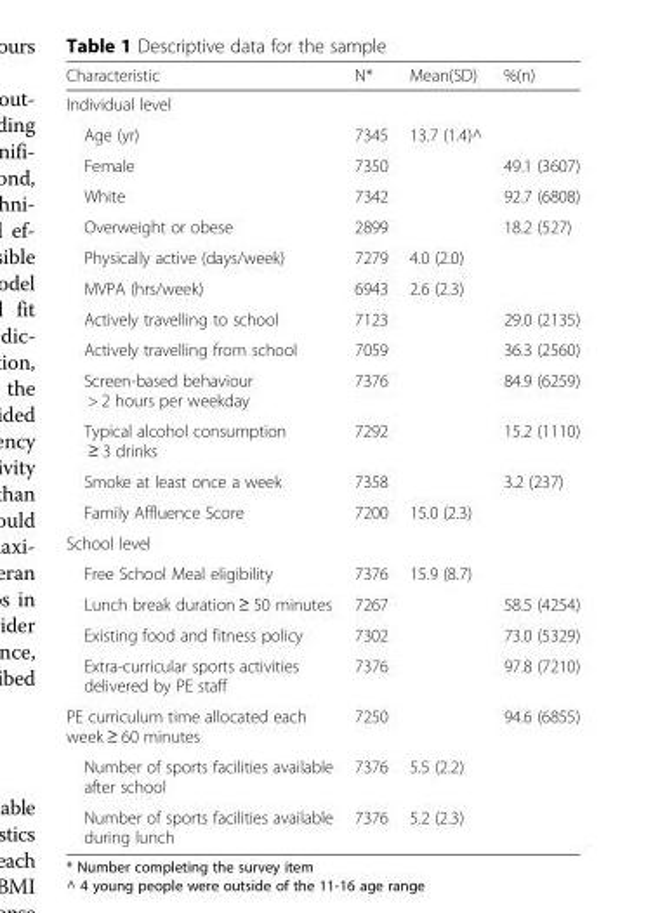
<table><thead><tr><td>Characteristic</td><td>N*</td><td>Mean(SD)</td><td>%(n)</td></tr></thead><tbody><tr><td colspan="4">Individual level</td></tr><tr><td>Age (yr)</td><td>7345</td><td>13.7 (1.4)^</td><td></td></tr><tr><td>Female</td><td>7350</td><td></td><td>49.1 (3607)</td></tr><tr><td>White</td><td>7342</td><td></td><td>92.7 (6808)</td></tr><tr><td>Overweight or obese</td><td>2899</td><td></td><td>18.2 (527)</td></tr><tr><td>Physically active (days/week)</td><td>7279</td><td>4.0 (2.0)</td><td></td></tr><tr><td>MVPA (hrs/week)</td><td>6943</td><td>2.6 (2.3)</td><td></td></tr><tr><td>Actively travelling to school</td><td>7123</td><td></td><td>29.0 (2135)</td></tr><tr><td>Actively travelling from school</td><td>7059</td><td></td><td>36.3 (2560)</td></tr><tr><td>Screen-based behaviour &gt; 2 hours per weekday</td><td>7376</td><td></td><td>84.9 (6259)</td></tr><tr><td>Typical alcohol consumption ≥ 3 drinks</td><td>7292</td><td></td><td>15.2 (1110)</td></tr><tr><td>Smoke at least once a week</td><td>7358</td><td></td><td>3.2 (237)</td></tr><tr><td>Family Affluence Score</td><td>7200</td><td>15.0 (2.3)</td><td></td></tr><tr><td colspan="4">School level</td></tr><tr><td>Free School Meal eligibility</td><td>7376</td><td>15.9 (8.7)</td><td></td></tr><tr><td>Lunch break duration ≥ 50 minutes</td><td>7267</td><td></td><td>58.5 (4254)</td></tr><tr><td>Existing food and fitness policy</td><td>7302</td><td></td><td>73.0 (5329)</td></tr><tr><td>Extra-curricular sports activities delivered by PE staff</td><td>7376</td><td></td><td>97.8 (7210)</td></tr><tr><td>PE curriculum time allocated each week ≥ 60 minutes</td><td>7250</td><td></td><td>94.6 (6855)</td></tr><tr><td>Number of sports facilities available after school</td><td>7376</td><td>5.5 (2.2)</td><td></td></tr><tr><td>Number of sports facilities available during lunch</td><td>7376</td><td>5.2 (2.3)</td><td></td></tr></tbody></table>